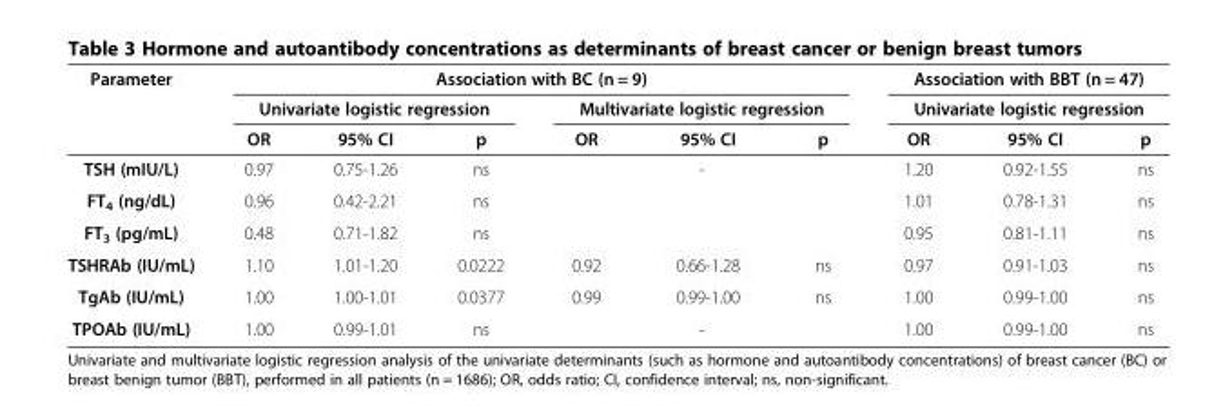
<table><thead><tr><td rowspan="3">Parameter</td><td colspan="6">Association with BC (n = 9)</td><td rowspan="2" colspan="3">Association with BBT (n = 47) Univariate logistic regression</td></tr><tr><td colspan="3">Univariate logistic regression</td><td colspan="3">Multivariate logistic regression</td></tr><tr><td>OR</td><td>95% CI</td><td>p</td><td>OR</td><td>95% CI</td><td>p</td><td>OR</td><td>95% CI</td><td>p</td></tr></thead><tbody><tr><td>TSH (mIU/L)</td><td>0.97</td><td>0.75-1.26</td><td>ns</td><td rowspan="3" colspan="3">-</td><td>1.20</td><td>0.92-1.55</td><td>ns</td></tr><tr><td>FT<sub>4</sub> (ng/dL)</td><td>0.96</td><td>0.42-2.21</td><td>ns</td><td>1.01</td><td>0.78-1.31</td><td>ns</td></tr><tr><td>FT<sub>3</sub> (pg/mL)</td><td>0.48</td><td>0.71-1.82</td><td>ns</td><td>0.95</td><td>0.81-1.11</td><td>ns</td></tr><tr><td>TSHRAb (IU/mL)</td><td>1.10</td><td>1.01-1.20</td><td>0.0222</td><td>0.92</td><td>0.66-1.28</td><td>ns</td><td>0.97</td><td>0.91-1.03</td><td>ns</td></tr><tr><td>TgAb (IU/mL)</td><td>1.00</td><td>1.00-1.01</td><td>0.0377</td><td>0.99</td><td>0.99-1.00</td><td>ns</td><td>1.00</td><td>0.99-1.00</td><td>ns</td></tr><tr><td>TPOAb (IU/mL)</td><td>1.00</td><td>0.99-1.01</td><td>ns</td><td colspan="3">-</td><td>1.00</td><td>0.99-1.00</td><td>ns</td></tr></tbody></table>